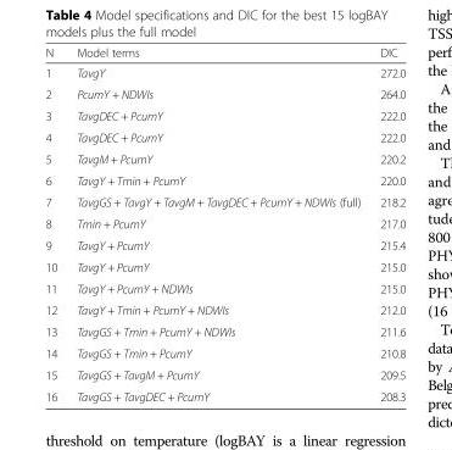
<table><thead><tr><td>N</td><td>Model terms</td><td>DIC</td></tr></thead><tbody><tr><td>1</td><td>TavgY</td><td>272.0</td></tr><tr><td>2</td><td>PcumY + NDWIs</td><td>264.0</td></tr><tr><td>3</td><td>TavgDEC + PcumY</td><td>222.0</td></tr><tr><td>4</td><td>TavgDEC + PcumY</td><td>222.0</td></tr><tr><td>5</td><td>TavgM + PcumY</td><td>220.2</td></tr><tr><td>6</td><td>TavgY + Tmin + PcumY</td><td>220.0</td></tr><tr><td>7</td><td>TavgGS + TavgY + TavgM + TavgDEC + PcumY + NDWIs (full)</td><td>218.2</td></tr><tr><td>8</td><td>Tmin + PcumY</td><td>217.0</td></tr><tr><td>9</td><td>TavgY + PcumY</td><td>215.4</td></tr><tr><td>10</td><td>TavgY + PcumY</td><td>215.0</td></tr><tr><td>11</td><td>TavgY + PcumY + NDWIs</td><td>215.0</td></tr><tr><td>12</td><td>TavgY + Tmin + PcumY + NDWIs</td><td>212.0</td></tr><tr><td>13</td><td>TavgGS + Tmin + PcumY + NDWIs</td><td>211.6</td></tr><tr><td>14</td><td>TavgGS + Tmin + PcumY</td><td>210.8</td></tr><tr><td>15</td><td>TavgGS + TavgM + PcumY</td><td>209.5</td></tr><tr><td>16</td><td>TavgGS + TavgDEC + PcumY</td><td>208.3</td></tr></tbody></table>